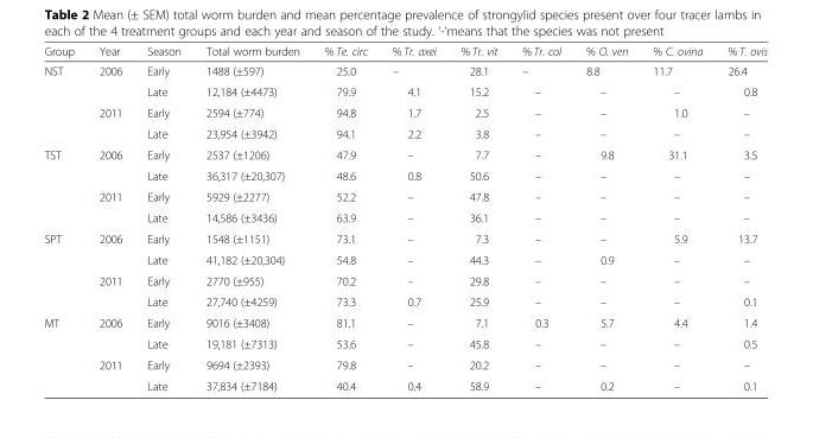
<table><thead><tr><td>Group</td><td>Year</td><td>Season</td><td>Total worm burden</td><td>% Te. circ</td><td>% Tr. axei</td><td>% Tr. vit</td><td>% Tr. col</td><td>% O. ven</td><td>% C. ovina</td><td>% T. ovis</td></tr></thead><tbody><tr><td rowspan="4">NST</td><td rowspan="2">2006</td><td>Early</td><td>1488 (±597)</td><td>25.0</td><td>–</td><td>28.1</td><td>–</td><td>8.8</td><td>11.7</td><td>26.4</td></tr><tr><td>Late</td><td>12,184 (±4473)</td><td>79.9</td><td>4.1</td><td>15.2</td><td>–</td><td>–</td><td>–</td><td>0.8</td></tr><tr><td rowspan="2">2011</td><td>Early</td><td>2594 (±774)</td><td>94.8</td><td>1.7</td><td>2.5</td><td>–</td><td>–</td><td>1.0</td><td>–</td></tr><tr><td>Late</td><td>23,954 (±3942)</td><td>94.1</td><td>2.2</td><td>3.8</td><td>–</td><td>–</td><td>–</td><td>–</td></tr><tr><td rowspan="4">TST</td><td rowspan="2">2006</td><td>Early</td><td>2537 (±1206)</td><td>47.9</td><td>–</td><td>7.7</td><td>–</td><td>9.8</td><td>31.1</td><td>3.5</td></tr><tr><td>Late</td><td>36,317 (±20,307)</td><td>48.6</td><td>0.8</td><td>50.6</td><td>–</td><td>–</td><td>–</td><td>–</td></tr><tr><td rowspan="2">2011</td><td>Early</td><td>5929 (±2277)</td><td>52.2</td><td>–</td><td>47.8</td><td>–</td><td>–</td><td>–</td><td>–</td></tr><tr><td>Late</td><td>14,586 (±3436)</td><td>63.9</td><td>–</td><td>36.1</td><td>–</td><td>–</td><td>–</td><td>–</td></tr><tr><td rowspan="4">SPT</td><td rowspan="2">2006</td><td>Early</td><td>1548 (±1151)</td><td>73.1</td><td>–</td><td>7.3</td><td>–</td><td>–</td><td>5.9</td><td>13.7</td></tr><tr><td>Late</td><td>41,182 (±20,304)</td><td>54.8</td><td>–</td><td>44.3</td><td>–</td><td>0.9</td><td>–</td><td>–</td></tr><tr><td rowspan="2">2011</td><td>Early</td><td>2770 (±955)</td><td>70.2</td><td>–</td><td>29.8</td><td>–</td><td>–</td><td>–</td><td>–</td></tr><tr><td>Late</td><td>27,740 (±4259)</td><td>73.3</td><td>0.7</td><td>25.9</td><td>–</td><td>–</td><td>–</td><td>0.1</td></tr><tr><td rowspan="4">MT</td><td rowspan="2">2006</td><td>Early</td><td>9016 (±3408)</td><td>81.1</td><td>–</td><td>7.1</td><td>0.3</td><td>5.7</td><td>4.4</td><td>1.4</td></tr><tr><td>Late</td><td>19,181 (±7313)</td><td>53.6</td><td>–</td><td>45.8</td><td>–</td><td>–</td><td>–</td><td>0.5</td></tr><tr><td rowspan="2">2011</td><td>Early</td><td>9694 (±2393)</td><td>79.8</td><td>–</td><td>20.2</td><td>–</td><td>–</td><td>–</td><td>–</td></tr><tr><td>Late</td><td>37,834 (±7184)</td><td>40.4</td><td>0.4</td><td>58.9</td><td>–</td><td>0.2</td><td>–</td><td>0.1</td></tr></tbody></table>